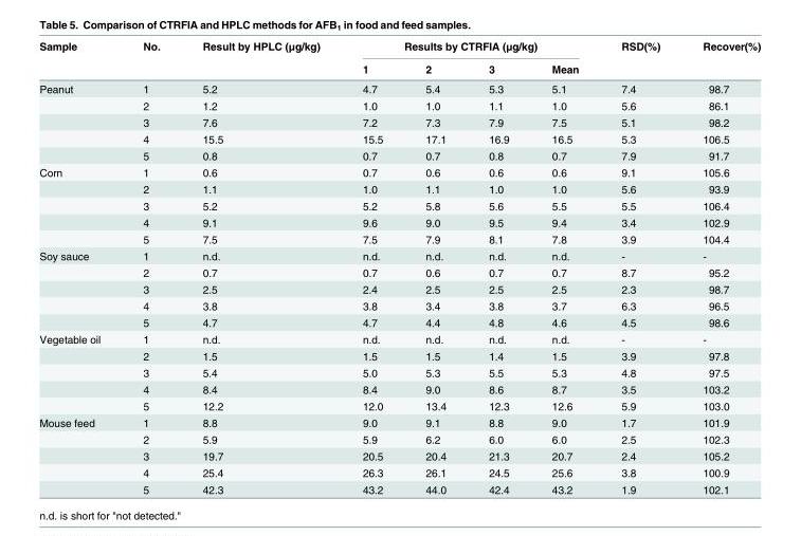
<table><thead><tr><td rowspan="2">Sample</td><td rowspan="2">No.</td><td rowspan="2">Result by HPLC (μg/kg)</td><td colspan="4">Results by CTRFIA (μg/kg)</td><td rowspan="2">RSD(%)</td><td rowspan="2">Recover(%)</td></tr><tr><td>1</td><td>2</td><td>3</td><td>Mean</td></tr></thead><tbody><tr><td rowspan="5">Peanut</td><td>1</td><td>5.2</td><td>4.7</td><td>5.4</td><td>5.3</td><td>5.1</td><td>7.4</td><td>98.7</td></tr><tr><td>2</td><td>1.2</td><td>1.0</td><td>1.0</td><td>1.1</td><td>1.0</td><td>5.6</td><td>86.1</td></tr><tr><td>3</td><td>7.6</td><td>7.2</td><td>7.3</td><td>7.9</td><td>7.5</td><td>5.1</td><td>98.2</td></tr><tr><td>4</td><td>15.5</td><td>15.5</td><td>17.1</td><td>16.9</td><td>16.5</td><td>5.3</td><td>106.5</td></tr><tr><td>5</td><td>0.8</td><td>0.7</td><td>0.7</td><td>0.8</td><td>0.7</td><td>7.9</td><td>91.7</td></tr><tr><td rowspan="5">Corn</td><td>1</td><td>0.6</td><td>0.7</td><td>0.6</td><td>0.6</td><td>0.6</td><td>9.1</td><td>105.6</td></tr><tr><td>2</td><td>1.1</td><td>1.0</td><td>1.1</td><td>1.0</td><td>1.0</td><td>5.6</td><td>93.9</td></tr><tr><td>3</td><td>5.2</td><td>5.2</td><td>5.8</td><td>5.6</td><td>5.5</td><td>5.5</td><td>106.4</td></tr><tr><td>4</td><td>9.1</td><td>9.6</td><td>9.0</td><td>9.5</td><td>9.4</td><td>3.4</td><td>102.9</td></tr><tr><td>5</td><td>7.5</td><td>7.5</td><td>7.9</td><td>8.1</td><td>7.8</td><td>3.9</td><td>104.4</td></tr><tr><td rowspan="5">Soy sauce</td><td>1</td><td>n.d.</td><td>n.d.</td><td>n.d.</td><td>n.d.</td><td>n.d.</td><td>-</td><td>-</td></tr><tr><td>2</td><td>0.7</td><td>0.7</td><td>0.6</td><td>0.7</td><td>0.7</td><td>8.7</td><td>95.2</td></tr><tr><td>3</td><td>2.5</td><td>2.4</td><td>2.5</td><td>2.5</td><td>2.5</td><td>2.3</td><td>98.7</td></tr><tr><td>4</td><td>3.8</td><td>3.8</td><td>3.4</td><td>3.8</td><td>3.7</td><td>6.3</td><td>96.5</td></tr><tr><td>5</td><td>4.7</td><td>4.7</td><td>4.4</td><td>4.8</td><td>4.6</td><td>4.5</td><td>98.6</td></tr><tr><td rowspan="5">Vegetable oil</td><td>1</td><td>n.d.</td><td>n.d.</td><td>n.d.</td><td>n.d.</td><td>n.d.</td><td>-</td><td>-</td></tr><tr><td>2</td><td>1.5</td><td>1.5</td><td>1.5</td><td>1.4</td><td>1.5</td><td>3.9</td><td>97.8</td></tr><tr><td>3</td><td>5.4</td><td>5.0</td><td>5.3</td><td>5.5</td><td>5.3</td><td>4.8</td><td>97.5</td></tr><tr><td>4</td><td>8.4</td><td>8.4</td><td>9.0</td><td>8.6</td><td>8.7</td><td>3.5</td><td>103.2</td></tr><tr><td>5</td><td>12.2</td><td>12.0</td><td>13.4</td><td>12.3</td><td>12.6</td><td>5.9</td><td>103.0</td></tr><tr><td rowspan="5">Mouse feed</td><td>1</td><td>8.8</td><td>9.0</td><td>9.1</td><td>8.8</td><td>9.0</td><td>1.7</td><td>101.9</td></tr><tr><td>2</td><td>5.9</td><td>5.9</td><td>6.2</td><td>6.0</td><td>6.0</td><td>2.5</td><td>102.3</td></tr><tr><td>3</td><td>19.7</td><td>20.5</td><td>20.4</td><td>21.3</td><td>20.7</td><td>2.4</td><td>105.2</td></tr><tr><td>4</td><td>25.4</td><td>26.3</td><td>26.1</td><td>24.5</td><td>25.6</td><td>3.8</td><td>100.9</td></tr><tr><td>5</td><td>42.3</td><td>43.2</td><td>44.0</td><td>42.4</td><td>43.2</td><td>1.9</td><td>102.1</td></tr></tbody></table>